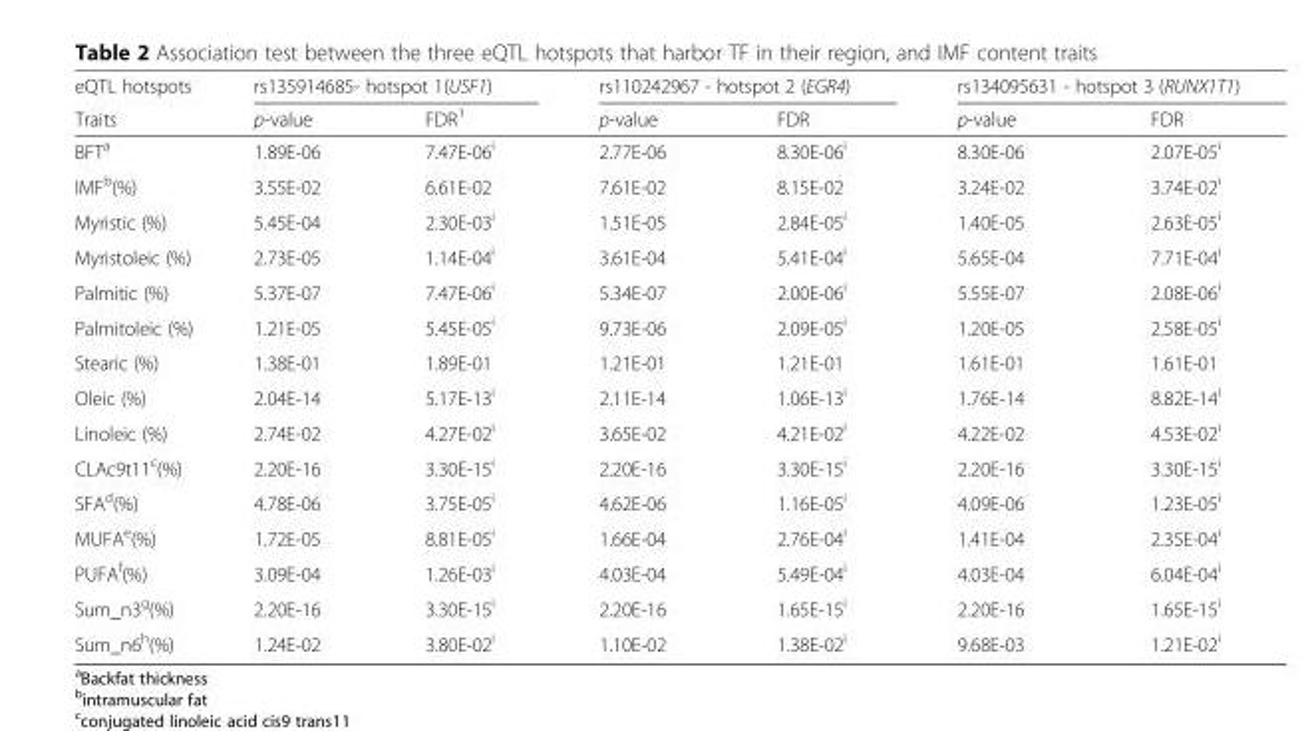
<table><thead><tr><td rowspan="2">eQTL hotspots Traits</td><td colspan="2">rs135914685- hotspot 1(USF1)</td><td colspan="2">rs110242967 - hotspot 2 (EGR4)</td><td colspan="2">rs134095631 - hotspot 3 (RUNX1T1)</td></tr><tr><td>p-value</td><td>FDR<sup>1</sup></td><td>p-value</td><td>FDR</td><td>p-value</td><td>FDR</td></tr></thead><tbody><tr><td>BFT<sup>a</sup></td><td>1.89E-06</td><td>7.47E-06<sup>i</sup></td><td>2.77E-06</td><td>8.30E-06<sup>i</sup></td><td>8.30E-06</td><td>2.07E-05<sup>i</sup></td></tr><tr><td>IMF<sup>b</sup>(%)</td><td>3.55E-02</td><td>6.61E-02</td><td>7.61E-02</td><td>8.15E-02</td><td>3.24E-02</td><td>3.74E-02<sup>i</sup></td></tr><tr><td>Myristic (%)</td><td>5.45E-04</td><td>2.30E-03<sup>i</sup></td><td>1.51E-05</td><td>2.84E-05<sup>i</sup></td><td>1.40E-05</td><td>2.63E-05<sup>i</sup></td></tr><tr><td>Myristoleic (%)</td><td>2.73E-05</td><td>1.14E-04<sup>i</sup></td><td>3.61E-04</td><td>5.41E-04<sup>i</sup></td><td>5.65E-04</td><td>7.71E-04<sup>i</sup></td></tr><tr><td>Palmitic (%)</td><td>5.37E-07</td><td>7.47E-06<sup>i</sup></td><td>5.34E-07</td><td>2.00E-06<sup>i</sup></td><td>5.55E-07</td><td>2.08E-06<sup>i</sup></td></tr><tr><td>Palmitoleic (%)</td><td>1.21E-05</td><td>5.45E-05<sup>i</sup></td><td>9.73E-06</td><td>2.09E-05<sup>i</sup></td><td>1.20E-05</td><td>2.58E-05<sup>i</sup></td></tr><tr><td>Stearic (%)</td><td>1.38E-01</td><td>1.89E-01</td><td>1.21E-01</td><td>1.21E-01</td><td>1.61E-01</td><td>1.61E-01</td></tr><tr><td>Oleic (%)</td><td>2.04E-14</td><td>5.17E-13<sup>i</sup></td><td>2.11E-14</td><td>1.06E-13<sup>i</sup></td><td>1.76E-14</td><td>8.82E-14<sup>i</sup></td></tr><tr><td>Linoleic (%)</td><td>2.74E-02</td><td>4.27E-02<sup>i</sup></td><td>3.65E-02</td><td>4.21E-02<sup>i</sup></td><td>4.22E-02</td><td>4.53E-02<sup>i</sup></td></tr><tr><td>CLAc9t11<sup>c</sup>(%)</td><td>2.20E-16</td><td>3.30E-15<sup>i</sup></td><td>2.20E-16</td><td>3.30E-15<sup>i</sup></td><td>2.20E-16</td><td>3.30E-15<sup>i</sup></td></tr><tr><td>SFA<sup>d</sup>(%)</td><td>4.78E-06</td><td>3.75E-05<sup>i</sup></td><td>4.62E-06</td><td>1.16E-05<sup>i</sup></td><td>4.09E-06</td><td>1.23E-05<sup>i</sup></td></tr><tr><td>MUFA<sup>e</sup>(%)</td><td>1.72E-05</td><td>8.81E-05<sup>i</sup></td><td>1.66E-04</td><td>2.76E-04<sup>i</sup></td><td>1.41E-04</td><td>2.35E-04<sup>i</sup></td></tr><tr><td>PUFA<sup>f</sup>(%)</td><td>3.09E-04</td><td>1.26E-03<sup>i</sup></td><td>4.03E-04</td><td>5.49E-04<sup>i</sup></td><td>4.03E-04</td><td>6.04E-04<sup>i</sup></td></tr><tr><td>Sum_n3<sup>g</sup>(%)</td><td>2.20E-16</td><td>3.30E-15<sup>i</sup></td><td>2.20E-16</td><td>1.65E-15<sup>i</sup></td><td>2.20E-16</td><td>1.65E-15<sup>i</sup></td></tr><tr><td>Sum_n6<sup>h</sup>(%)</td><td>1.24E-02</td><td>3.80E-02<sup>i</sup></td><td>1.10E-02</td><td>1.38E-02<sup>i</sup></td><td>9.68E-03</td><td>1.21E-02<sup>i</sup></td></tr></tbody></table>